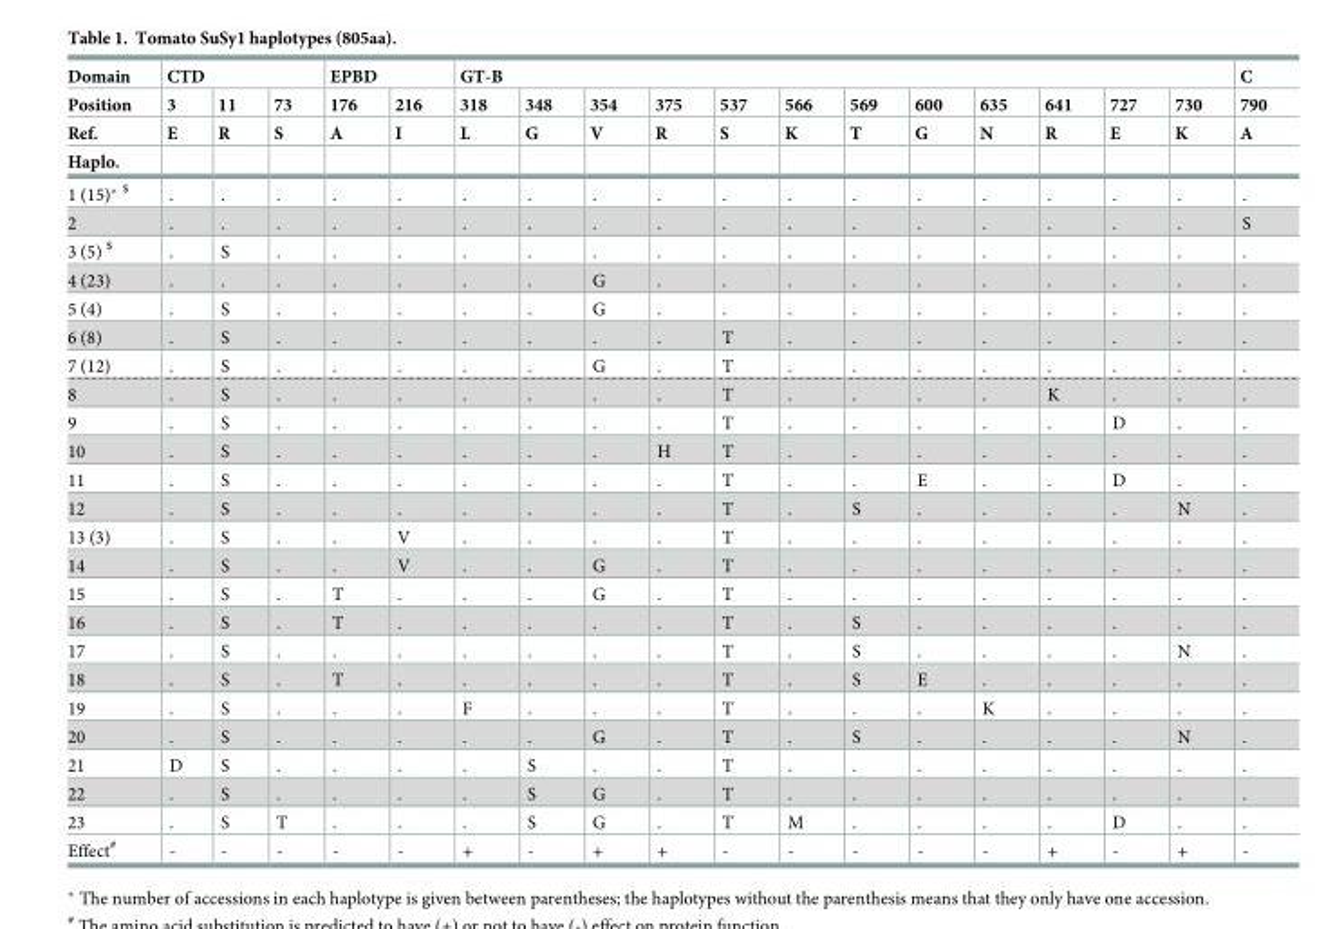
<table><thead><tr><td rowspan="4">Domain Position Ref. Haplo.</td><td colspan="3">CTD</td><td colspan="2">EPBD</td><td colspan="12">GT-B</td><td rowspan="4">C 790 A</td></tr><tr><td rowspan="3">3 E</td><td rowspan="3">11 R</td><td rowspan="3">73 S</td><td rowspan="3">176 A</td><td rowspan="3">216 I</td><td rowspan="3">318 L</td><td rowspan="3">348 G</td><td rowspan="3">354 V</td><td rowspan="3">375 R</td><td rowspan="3">537 S</td><td rowspan="3">566 K</td><td rowspan="3">569 T</td><td rowspan="3">600 G</td><td rowspan="3">635 N</td><td rowspan="3">641 R</td><td rowspan="3">727 E</td><td rowspan="3">730 K</td></tr><tr></tr><tr></tr></thead><tbody><tr><td>1 (15)* <sup>$</sup></td><td>.</td><td>.</td><td>.</td><td>.</td><td>.</td><td>.</td><td>.</td><td>.</td><td>.</td><td>.</td><td>.</td><td>.</td><td>.</td><td>.</td><td>.</td><td>.</td><td>.</td><td>.</td></tr><tr><td>2</td><td>.</td><td>.</td><td>.</td><td>.</td><td>.</td><td>.</td><td>.</td><td>.</td><td>.</td><td>.</td><td>.</td><td>.</td><td>.</td><td>.</td><td>.</td><td>.</td><td>.</td><td>S</td></tr><tr><td>3 (5) <sup>$</sup></td><td>.</td><td>S</td><td>.</td><td>.</td><td>.</td><td>.</td><td>.</td><td>.</td><td>.</td><td>.</td><td>.</td><td>.</td><td>.</td><td>.</td><td>.</td><td>.</td><td>.</td><td>.</td></tr><tr><td>4 (23)</td><td>.</td><td>.</td><td>.</td><td>.</td><td>.</td><td>.</td><td>.</td><td>G</td><td>.</td><td>.</td><td>.</td><td>.</td><td>.</td><td>.</td><td>.</td><td>.</td><td>.</td><td>.</td></tr><tr><td>5 (4)</td><td>.</td><td>S</td><td>.</td><td>.</td><td>.</td><td>.</td><td>.</td><td>G</td><td>.</td><td>.</td><td>.</td><td>.</td><td>.</td><td>.</td><td>.</td><td>.</td><td>.</td><td>.</td></tr><tr><td>6 (8)</td><td>.</td><td>S</td><td>.</td><td>.</td><td>.</td><td>.</td><td>.</td><td>.</td><td>.</td><td>T</td><td>.</td><td>.</td><td>.</td><td>.</td><td>.</td><td>.</td><td>.</td><td>.</td></tr><tr><td>7 (12)</td><td>.</td><td>S</td><td>.</td><td>.</td><td>.</td><td>.</td><td>.</td><td>G</td><td>.</td><td>T</td><td>.</td><td>.</td><td>.</td><td>.</td><td>.</td><td>.</td><td>.</td><td>.</td></tr><tr><td>8</td><td>.</td><td>S</td><td>.</td><td>.</td><td>.</td><td>.</td><td>.</td><td>.</td><td>.</td><td>T</td><td>.</td><td>.</td><td>.</td><td>.</td><td>K</td><td>.</td><td>.</td><td>.</td></tr><tr><td>9</td><td>.</td><td>S</td><td>.</td><td>.</td><td>.</td><td>.</td><td>.</td><td>.</td><td>.</td><td>T</td><td>.</td><td>.</td><td>.</td><td>.</td><td>.</td><td>D</td><td>.</td><td>.</td></tr><tr><td>10</td><td>.</td><td>S</td><td>.</td><td>.</td><td>.</td><td>.</td><td>.</td><td>.</td><td>H</td><td>T</td><td>.</td><td>.</td><td>.</td><td>.</td><td>.</td><td>.</td><td>.</td><td>.</td></tr><tr><td>11</td><td>.</td><td>S</td><td>.</td><td>.</td><td>.</td><td>.</td><td>.</td><td>.</td><td>.</td><td>T</td><td>.</td><td>.</td><td>E</td><td>.</td><td>.</td><td>D</td><td>.</td><td>.</td></tr><tr><td>12</td><td>.</td><td>S</td><td>.</td><td>.</td><td>.</td><td>.</td><td>.</td><td>.</td><td>.</td><td>T</td><td>.</td><td>S</td><td>.</td><td>.</td><td>.</td><td>.</td><td>N</td><td>.</td></tr><tr><td>13 (3)</td><td>.</td><td>S</td><td>.</td><td>.</td><td>V</td><td>.</td><td>.</td><td>.</td><td>.</td><td>T</td><td>.</td><td>.</td><td>.</td><td>.</td><td>.</td><td>.</td><td>.</td><td>.</td></tr><tr><td>14</td><td>.</td><td>S</td><td>.</td><td>.</td><td>V</td><td>.</td><td>.</td><td>G</td><td>.</td><td>T</td><td>.</td><td>.</td><td>.</td><td>.</td><td>.</td><td>.</td><td>.</td><td>.</td></tr><tr><td>15</td><td>.</td><td>S</td><td>.</td><td>T</td><td>.</td><td>.</td><td>.</td><td>G</td><td>.</td><td>T</td><td>.</td><td>.</td><td>.</td><td>.</td><td>.</td><td>.</td><td>.</td><td>.</td></tr><tr><td>16</td><td>.</td><td>S</td><td>.</td><td>T</td><td>.</td><td>.</td><td>.</td><td>.</td><td>.</td><td>T</td><td>.</td><td>S</td><td>.</td><td>.</td><td>.</td><td>.</td><td>.</td><td>.</td></tr><tr><td>17</td><td>.</td><td>S</td><td>.</td><td>.</td><td>.</td><td>.</td><td>.</td><td>.</td><td>.</td><td>T</td><td>.</td><td>S</td><td>.</td><td>.</td><td>.</td><td>.</td><td>N</td><td>.</td></tr><tr><td>18</td><td>.</td><td>S</td><td>.</td><td>T</td><td>.</td><td>.</td><td>.</td><td>.</td><td>.</td><td>T</td><td>.</td><td>S</td><td>E</td><td>.</td><td>.</td><td>.</td><td>.</td><td>.</td></tr><tr><td>19</td><td>.</td><td>S</td><td>.</td><td>.</td><td>.</td><td>F</td><td>.</td><td>.</td><td>.</td><td>T</td><td>.</td><td>.</td><td>.</td><td>K</td><td>.</td><td>.</td><td>.</td><td>.</td></tr><tr><td>20</td><td>.</td><td>S</td><td>.</td><td>.</td><td>.</td><td>.</td><td>.</td><td>G</td><td>.</td><td>T</td><td>.</td><td>S</td><td>.</td><td>.</td><td>.</td><td>.</td><td>N</td><td>.</td></tr><tr><td>21</td><td>D</td><td>S</td><td>.</td><td>.</td><td>.</td><td>.</td><td>S</td><td>.</td><td>.</td><td>T</td><td>.</td><td>.</td><td>.</td><td>.</td><td>.</td><td>.</td><td>.</td><td>.</td></tr><tr><td>22</td><td>.</td><td>S</td><td>.</td><td>.</td><td>.</td><td>.</td><td>S</td><td>G</td><td>.</td><td>T</td><td>.</td><td>.</td><td>.</td><td>.</td><td>.</td><td>.</td><td>.</td><td>.</td></tr><tr><td>23</td><td>.</td><td>S</td><td>T</td><td>.</td><td>.</td><td>.</td><td>S</td><td>G</td><td>.</td><td>T</td><td>M</td><td>.</td><td>.</td><td>.</td><td>.</td><td>D</td><td>.</td><td>.</td></tr><tr><td>Effect<sup>#</sup></td><td>-</td><td>-</td><td>-</td><td>-</td><td>-</td><td>+</td><td>-</td><td>+</td><td>+</td><td>-</td><td>-</td><td>-</td><td>-</td><td>-</td><td>+</td><td>-</td><td>+</td><td>-</td></tr></tbody></table>